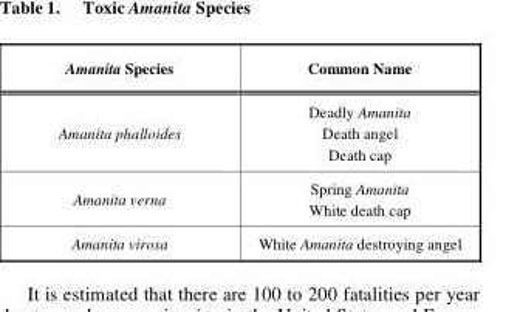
<table><thead><tr><td>Amanita Species</td><td>Common Name</td></tr></thead><tbody><tr><td>Amanita phalloides</td><td>Deadly Amanita Death angel Death cap</td></tr><tr><td>Amanita verna</td><td>Spring Amanita White death cap</td></tr><tr><td>Amanita virosa</td><td>White Amanita destroying angel</td></tr></tbody></table>